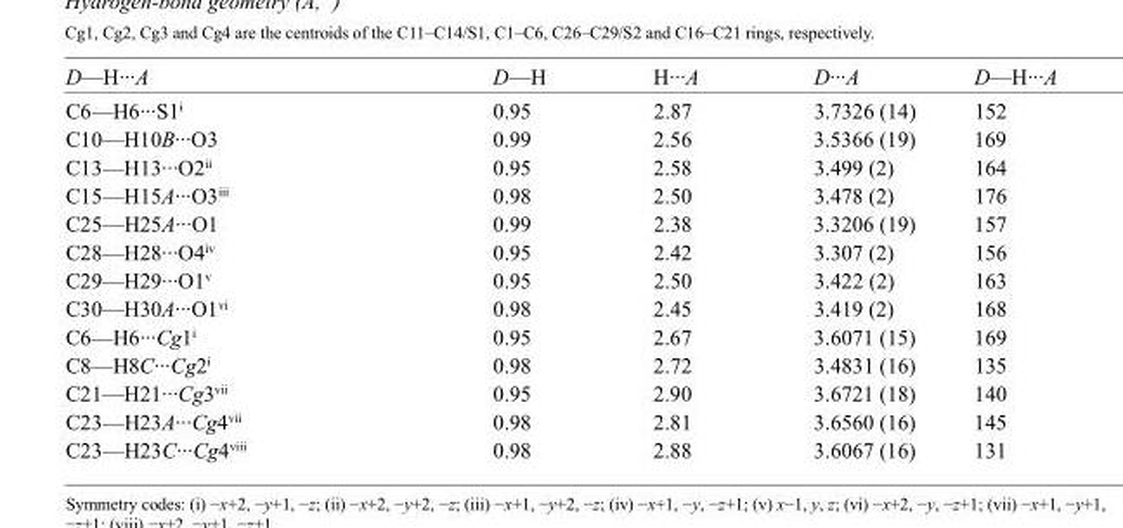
<table><tbody><tr><td>D—H···A</td><td>D—H</td><td>H···A</td><td>D···A</td><td>D—H···A</td></tr><tr><td>C6—H6···S1<sup>i</sup></td><td>0.95</td><td>2.87</td><td>3.7326 (14)</td><td>152</td></tr><tr><td>C10—H10B···O3</td><td>0.99</td><td>2.56</td><td>3.5366 (19)</td><td>169</td></tr><tr><td>C13—H13···O2<sup>ii</sup></td><td>0.95</td><td>2.58</td><td>3.499 (2)</td><td>164</td></tr><tr><td>C15—H15A···O3<sup>iii</sup></td><td>0.98</td><td>2.50</td><td>3.478 (2)</td><td>176</td></tr><tr><td>C25—H25A···O1</td><td>0.99</td><td>2.38</td><td>3.3206 (19)</td><td>157</td></tr><tr><td>C28—H28···O4<sup>iv</sup></td><td>0.95</td><td>2.42</td><td>3.307 (2)</td><td>156</td></tr><tr><td>C29—H29···O1<sup>v</sup></td><td>0.95</td><td>2.50</td><td>3.422 (2)</td><td>163</td></tr><tr><td>C30—H30A···O1<sup>vi</sup></td><td>0.98</td><td>2.45</td><td>3.419 (2)</td><td>168</td></tr><tr><td>C6—H6···Cg1<sup>i</sup></td><td>0.95</td><td>2.67</td><td>3.6071 (15)</td><td>169</td></tr><tr><td>C8—H8C···Cg2<sup>i</sup></td><td>0.98</td><td>2.72</td><td>3.4831 (16)</td><td>135</td></tr><tr><td>C21—H21···Cg3<sup>vii</sup></td><td>0.95</td><td>2.90</td><td>3.6721 (18)</td><td>140</td></tr><tr><td>C23—H23A···Cg4<sup>vii</sup></td><td>0.98</td><td>2.81</td><td>3.6560 (16)</td><td>145</td></tr><tr><td>C23—H23C···Cg4<sup>viii</sup></td><td>0.98</td><td>2.88</td><td>3.6067 (16)</td><td>131</td></tr></tbody></table>